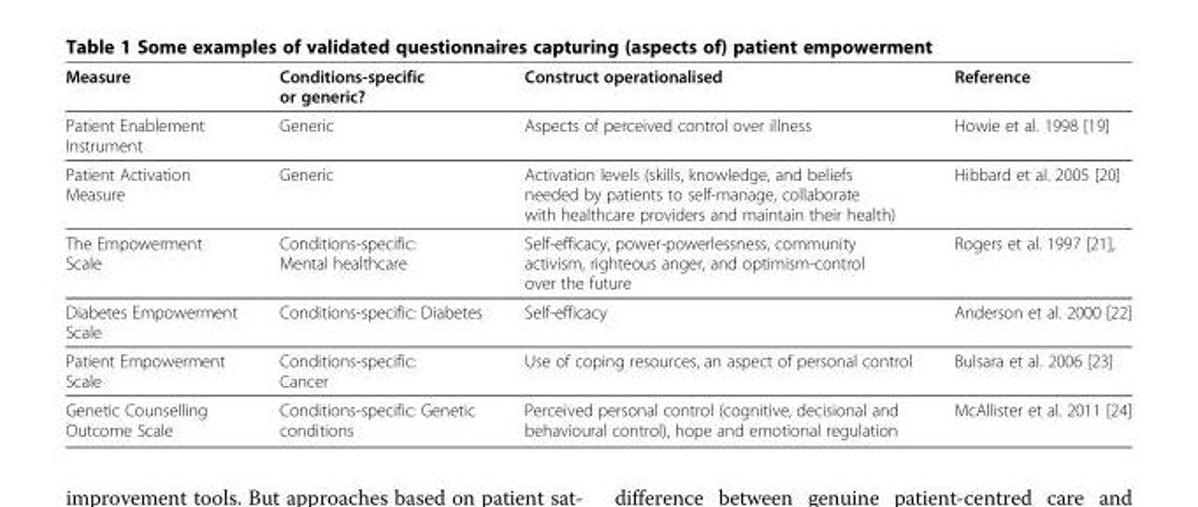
<table><thead><tr><td>Measure</td><td>Conditions-specific or generic?</td><td>Construct operationalised</td><td>Reference</td></tr></thead><tbody><tr><td>Patient Enablement Instrument</td><td>Generic</td><td>Aspects of perceived control over illness</td><td>Howie et al. 1998 [19]</td></tr><tr><td>Patient Activation Measure</td><td>Generic</td><td>Activation levels (skills, knowledge, and beliefs needed by patients to self-manage, collaborate with healthcare providers and maintain their health)</td><td>Hibbard et al. 2005 [20]</td></tr><tr><td>The Empowerment Scale</td><td>Conditions-specific: Mental healthcare</td><td>Self-efficacy, power-powerlessness, community activism, righteous anger, and optimism-control over the future</td><td>Rogers et al. 1997 [21],</td></tr><tr><td>Diabetes Empowerment Scale</td><td>Conditions-specific: Diabetes</td><td>Self-efficacy</td><td>Anderson et al. 2000 [22]</td></tr><tr><td>Patient Empowerment Scale</td><td>Conditions-specific: Cancer</td><td>Use of coping resources, an aspect of personal control</td><td>Bulsara et al. 2006 [23]</td></tr><tr><td>Genetic Counselling Outcome Scale</td><td>Conditions-specific: Genetic conditions</td><td>Perceived personal control (cognitive, decisional and behavioural control), hope and emotional regulation</td><td>McAllister et al. 2011 [24]</td></tr></tbody></table>